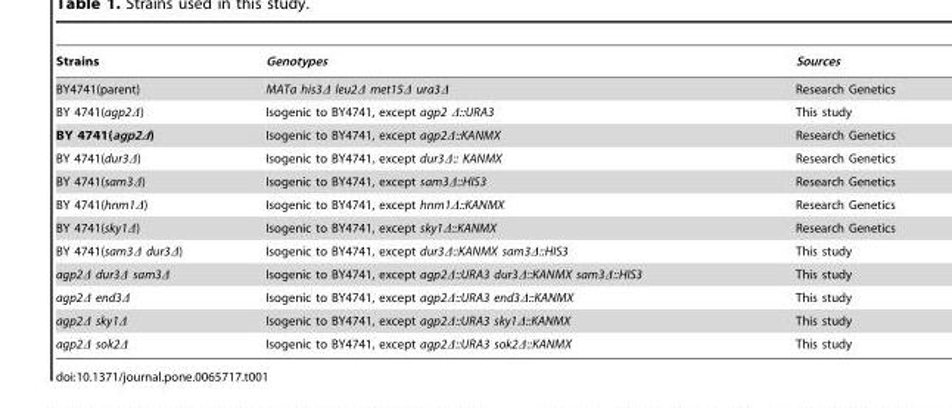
<table><thead><tr><td>Strains</td><td>Genotypes</td><td>Sources</td></tr></thead><tbody><tr><td>BY4741(parent)</td><td>MATa his3Δ leu2Δ met15Δ ura3Δ</td><td>Research Genetics</td></tr><tr><td>BY 4741(agp2Δ)</td><td>Isogenic to BY4741, except agp2 Δ::URA3</td><td>This study</td></tr><tr><td>BY 4741(agp2Δ)</td><td>Isogenic to BY4741, except agp2Δ::KANMX</td><td>Research Genetics</td></tr><tr><td>BY 4741(dur3Δ)</td><td>Isogenic to BY4741, except dur3Δ:: KANMX</td><td>Research Genetics</td></tr><tr><td>BY 4741(sam3Δ)</td><td>Isogenic to BY4741, except sam3Δ::HIS3</td><td>Research Genetics</td></tr><tr><td>BY 4741(hnm1Δ)</td><td>Isogenic to BY4741, except hnm1Δ::KANMX</td><td>Research Genetics</td></tr><tr><td>BY 4741(sky1Δ)</td><td>Isogenic to BY4741, except sky1Δ::KANMX</td><td>Research Genetics</td></tr><tr><td>BY 4741(sam3Δ dur3Δ)</td><td>Isogenic to BY4741, except dur3Δ::KANMX sam3Δ::HIS3</td><td>This study</td></tr><tr><td>agp2Δ dur3Δ sam3Δ</td><td>Isogenic to BY4741, except agp2Δ::URA3 dur3Δ::KANMX sam3Δ::HIS3</td><td>This study</td></tr><tr><td>agp2Δ end3Δ</td><td>Isogenic to BY4741, except agp2Δ::URA3 end3Δ::KANMX</td><td>This study</td></tr><tr><td>agp2Δ sky1Δ</td><td>Isogenic to BY4741, except agp2Δ::URA3 sky1Δ::KANMX</td><td>This study</td></tr><tr><td>agp2Δ sok2Δ</td><td>Isogenic to BY4741, except agp2Δ::URA3 sok2Δ::KANMX</td><td>This study</td></tr></tbody></table>